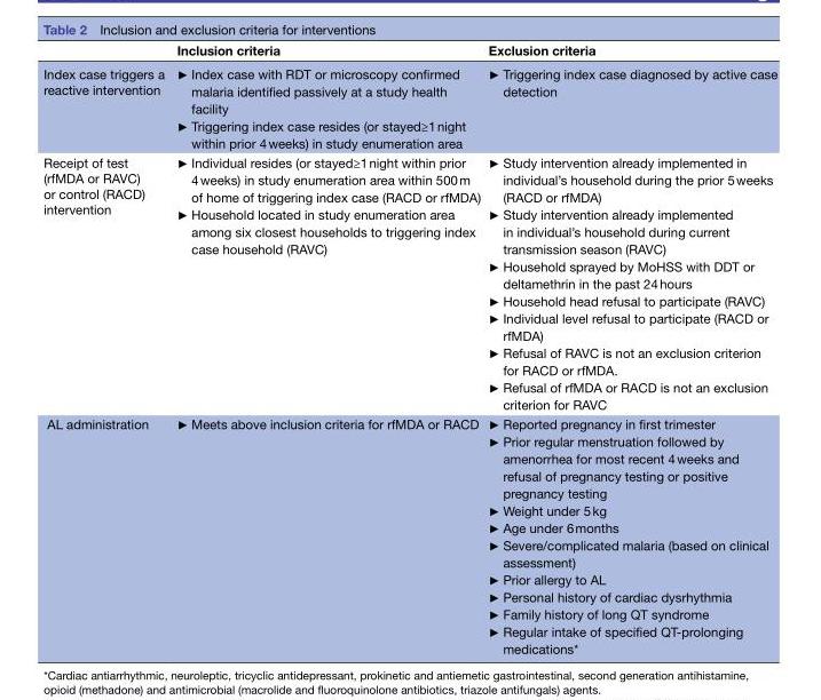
<table><thead><tr><td></td><td>Inclusion criteria</td><td>Exclusion criteria</td></tr></thead><tbody><tr><td>Index case triggers a reactive intervention</td><td>► Index case with RDT or microscopy confirmed malaria identified passively at a study health facility ► Triggering index case resides (or stayed≥1 night within prior 4 weeks) in study enumeration area</td><td>► Triggering index case diagnosed by active case detection</td></tr><tr><td>Receipt of test (rfMDA or RAVC) or control (RACD) intervention</td><td>► Individual resides (or stayed≥1 night within prior 4 weeks) in study enumeration area within 500 m of home of triggering index case (RACD or rfMDA) ► Household located in study enumeration area among six closest households to triggering index case household (RAVC)</td><td>► Study intervention already implemented in individual’s household during the prior 5 weeks (RACD or rfMDA) ► Study intervention already implemented in individual’s household during current transmission season (RAVC) ► Household sprayed by MoHSS with DDT or deltamethrin in the past 24 hours ► Household head refusal to participate (RAVC) ► Individual level refusal to participate (RACD or rfMDA) ► Refusal of RAVC is not an exclusion criterion for RACD or rfMDA. ► Refusal of rfMDA or RACD is not an exclusion criterion for RAVC</td></tr><tr><td>AL administration</td><td>► Meets above inclusion criteria for rfMDA or RACD</td><td>► Reported pregnancy in first trimester ► Prior regular menstruation followed by amenorrhea for most recent 4 weeks and refusal of pregnancy testing or positive pregnancy testing ► Weight under 5 kg ► Age under 6 months ► Severe/complicated malaria (based on clinical assessment) ► Prior allergy to AL ► Personal history of cardiac dysrhythmia ► Family history of long QT syndrome ► Regular intake of specified QT-prolonging medications*</td></tr></tbody></table>